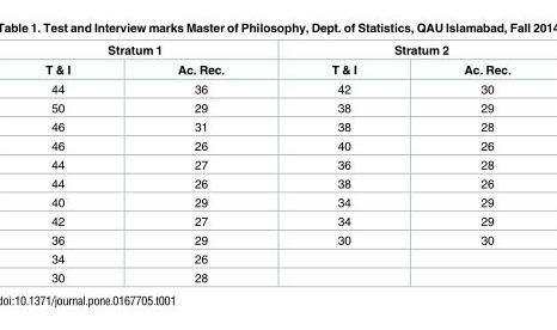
<table><thead><tr><td colspan="2">Stratum 1</td><td colspan="2">Stratum 2</td></tr><tr><td>T &amp; I</td><td>Ac. Rec.</td><td>T &amp; I</td><td>Ac. Rec.</td></tr></thead><tbody><tr><td>44</td><td>36</td><td>42</td><td>30</td></tr><tr><td>50</td><td>29</td><td>38</td><td>29</td></tr><tr><td>46</td><td>31</td><td>38</td><td>28</td></tr><tr><td>46</td><td>26</td><td>40</td><td>26</td></tr><tr><td>44</td><td>27</td><td>36</td><td>28</td></tr><tr><td>44</td><td>26</td><td>38</td><td>26</td></tr><tr><td>40</td><td>29</td><td>34</td><td>29</td></tr><tr><td>42</td><td>27</td><td>34</td><td>29</td></tr><tr><td>36</td><td>29</td><td>30</td><td>30</td></tr><tr><td>34</td><td>26</td><td></td><td></td></tr><tr><td>30</td><td>28</td><td></td><td></td></tr></tbody></table>